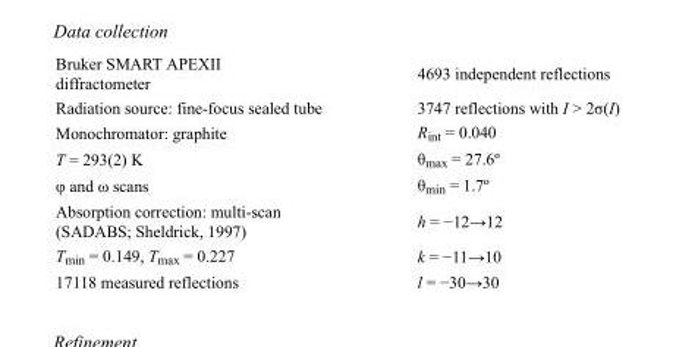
<table><tbody><tr><td>Bruker SMART APEXII diffractometer</td><td>4693 independent reflections</td></tr><tr><td>Radiation source: fine-focus sealed tube</td><td>3747 reflections with I &gt; 2σ(I)</td></tr><tr><td>Monochromator: graphite</td><td>R<sub>int</sub> = 0.040</td></tr><tr><td>T = 293(2) K</td><td>θ<sub>max</sub> = 27.6º</td></tr><tr><td>φ and ω scans</td><td>θ<sub>min</sub> = 1.7º</td></tr><tr><td>Absorption correction: multi-scan (SADABS; Sheldrick, 1997)</td><td>h = −12→12</td></tr><tr><td>T<sub>min</sub> = 0.149, T<sub>max</sub> = 0.227</td><td>k = −11→10</td></tr><tr><td>17118 measured reflections</td><td>l = −30→30</td></tr></tbody></table>